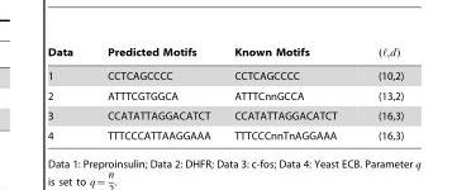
<table><thead><tr><td>Data</td><td>Predicted Motifs</td><td>Known Motifs</td><td>(‘,d)</td></tr></thead><tbody><tr><td>1</td><td>CCTCAGCCCC</td><td>CCTCAGCCCC</td><td>(10,2)</td></tr><tr><td>2</td><td>ATTTCGTGGCA</td><td>ATTTCnnGCCA</td><td>(13,2)</td></tr><tr><td>3</td><td>CCATATTAGGACATCT</td><td>CCATATTAGGACATCT</td><td>(16,3)</td></tr><tr><td>4</td><td>TTTCCCATTAAGGAAA</td><td>TTTCCCnnTnAGGAAA</td><td>(16,3)</td></tr></tbody></table>